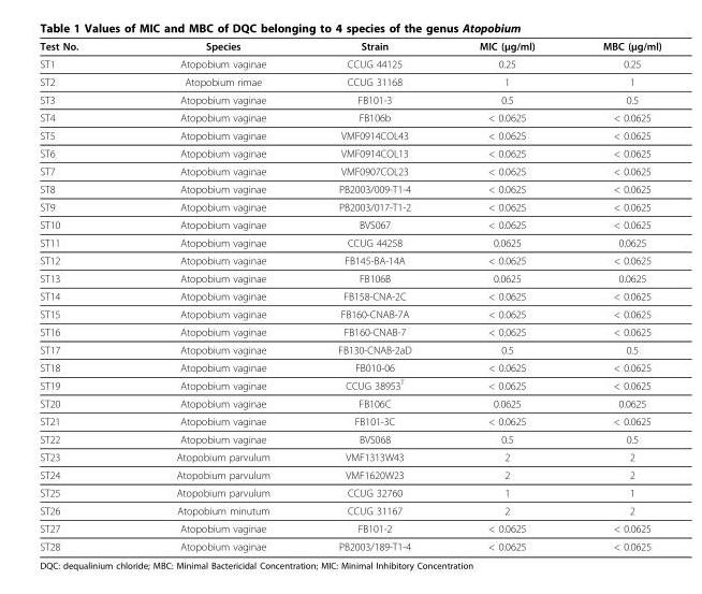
<table><thead><tr><td>Test No.</td><td>Species</td><td>Strain</td><td>MIC (μg/ml)</td><td>MBC (μg/ml)</td></tr></thead><tbody><tr><td>ST1</td><td>Atopobium vaginae</td><td>CCUG 44125</td><td>0.25</td><td>0.25</td></tr><tr><td>ST2</td><td>Atopobium rimae</td><td>CCUG 31168</td><td>1</td><td>1</td></tr><tr><td>ST3</td><td>Atopobium vaginae</td><td>FB101-3</td><td>0.5</td><td>0.5</td></tr><tr><td>ST4</td><td>Atopobium vaginae</td><td>FB106b</td><td>&lt; 0.0625</td><td>&lt; 0.0625</td></tr><tr><td>ST5</td><td>Atopobium vaginae</td><td>VMF0914COL43</td><td>&lt; 0.0625</td><td>&lt; 0.0625</td></tr><tr><td>ST6</td><td>Atopobium vaginae</td><td>VMF0914COL13</td><td>&lt; 0.0625</td><td>&lt; 0.0625</td></tr><tr><td>ST7</td><td>Atopobium vaginae</td><td>VMF0907COL23</td><td>&lt; 0.0625</td><td>&lt; 0.0625</td></tr><tr><td>ST8</td><td>Atopobium vaginae</td><td>PB2003/009-T1-4</td><td>&lt; 0.0625</td><td>&lt; 0.0625</td></tr><tr><td>ST9</td><td>Atopobium vaginae</td><td>PB2003/017-T1-2</td><td>&lt; 0.0625</td><td>&lt; 0.0625</td></tr><tr><td>ST10</td><td>Atopobium vaginae</td><td>BVS067</td><td>&lt; 0.0625</td><td>&lt; 0.0625</td></tr><tr><td>ST11</td><td>Atopobium vaginae</td><td>CCUG 44258</td><td>0.0625</td><td>0.0625</td></tr><tr><td>ST12</td><td>Atopobium vaginae</td><td>FB145-BA-14A</td><td>&lt; 0.0625</td><td>&lt; 0.0625</td></tr><tr><td>ST13</td><td>Atopobium vaginae</td><td>FB106B</td><td>0.0625</td><td>0.0625</td></tr><tr><td>ST14</td><td>Atopobium vaginae</td><td>FB158-CNA-2C</td><td>&lt; 0.0625</td><td>&lt; 0.0625</td></tr><tr><td>ST15</td><td>Atopobium vaginae</td><td>FB160-CNAB-7A</td><td>&lt; 0.0625</td><td>&lt; 0.0625</td></tr><tr><td>ST16</td><td>Atopobium vaginae</td><td>FB160-CNAB-7</td><td>&lt; 0.0625</td><td>&lt; 0.0625</td></tr><tr><td>ST17</td><td>Atopobium vaginae</td><td>FB130-CNAB-2aD</td><td>0.5</td><td>0.5</td></tr><tr><td>ST18</td><td>Atopobium vaginae</td><td>FB010-06</td><td>&lt; 0.0625</td><td>&lt; 0.0625</td></tr><tr><td>ST19</td><td>Atopobium vaginae</td><td>CCUG 38953<sup>T</sup></td><td>&lt; 0.0625</td><td>&lt; 0.0625</td></tr><tr><td>ST20</td><td>Atopobium vaginae</td><td>FB106C</td><td>0.0625</td><td>0.0625</td></tr><tr><td>ST21</td><td>Atopobium vaginae</td><td>FB101-3C</td><td>&lt; 0.0625</td><td>&lt; 0.0625</td></tr><tr><td>ST22</td><td>Atopobium vaginae</td><td>BVS068</td><td>0.5</td><td>0.5</td></tr><tr><td>ST23</td><td>Atopobium parvulum</td><td>VMF1313W43</td><td>2</td><td>2</td></tr><tr><td>ST24</td><td>Atopobium parvulum</td><td>VMF1620W23</td><td>2</td><td>2</td></tr><tr><td>ST25</td><td>Atopobium parvulum</td><td>CCUG 32760</td><td>1</td><td>1</td></tr><tr><td>ST26</td><td>Atopobium minutum</td><td>CCUG 31167</td><td>2</td><td>2</td></tr><tr><td>ST27</td><td>Atopobium vaginae</td><td>FB101-2</td><td>&lt; 0.0625</td><td>&lt; 0.0625</td></tr><tr><td>ST28</td><td>Atopobium vaginae</td><td>PB2003/189-T1-4</td><td>&lt; 0.0625</td><td>&lt; 0.0625</td></tr></tbody></table>